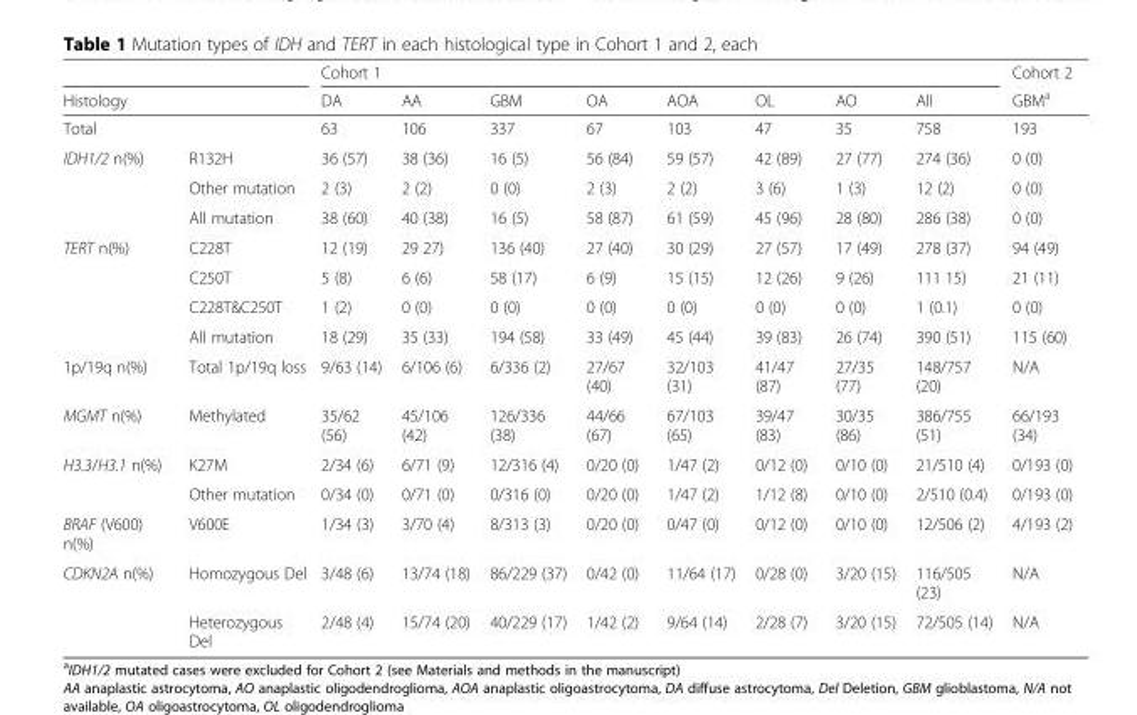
<table><thead><tr><td></td><td></td><td colspan="8">Cohort 1</td><td rowspan="2">Cohort 2 GBM<sup>a</sup></td></tr><tr><td colspan="2">Histology</td><td>DA</td><td>AA</td><td>GBM</td><td>OA</td><td>AOA</td><td>OL</td><td>AO</td><td>All</td></tr></thead><tbody><tr><td colspan="2">Total</td><td>63</td><td>106</td><td>337</td><td>67</td><td>103</td><td>47</td><td>35</td><td>758</td><td>193</td></tr><tr><td rowspan="3">IDH1/2 n(%)</td><td>R132H</td><td>36 (57)</td><td>38 (36)</td><td>16 (5)</td><td>56 (84)</td><td>59 (57)</td><td>42 (89)</td><td>27 (77)</td><td>274 (36)</td><td>0 (0)</td></tr><tr><td>Other mutation</td><td>2 (3)</td><td>2 (2)</td><td>0 (0)</td><td>2 (3)</td><td>2 (2)</td><td>3 (6)</td><td>1 (3)</td><td>12 (2)</td><td>0 (0)</td></tr><tr><td>All mutation</td><td>38 (60)</td><td>40 (38)</td><td>16 (5)</td><td>58 (87)</td><td>61 (59)</td><td>45 (96)</td><td>28 (80)</td><td>286 (38)</td><td>0 (0)</td></tr><tr><td rowspan="4">TERT n(%)</td><td>C228T</td><td>12 (19)</td><td>29 27)</td><td>136 (40)</td><td>27 (40)</td><td>30 (29)</td><td>27 (57)</td><td>17 (49)</td><td>278 (37)</td><td>94 (49)</td></tr><tr><td>C250T</td><td>5 (8)</td><td>6 (6)</td><td>58 (17)</td><td>6 (9)</td><td>15 (15)</td><td>12 (26)</td><td>9 (26)</td><td>111 15)</td><td>21 (11)</td></tr><tr><td>C228T&amp;C250T</td><td>1 (2)</td><td>0 (0)</td><td>0 (0)</td><td>0 (0)</td><td>0 (0)</td><td>0 (0)</td><td>0 (0)</td><td>1 (0.1)</td><td>0 (0)</td></tr><tr><td>All mutation</td><td>18 (29)</td><td>35 (33)</td><td>194 (58)</td><td>33 (49)</td><td>45 (44)</td><td>39 (83)</td><td>26 (74)</td><td>390 (51)</td><td>115 (60)</td></tr><tr><td>1p/19q n(%)</td><td>Total 1p/19q loss</td><td>9/63 (14)</td><td>6/106 (6)</td><td>6/336 (2)</td><td>27/67 (40)</td><td>32/103 (31)</td><td>41/47 (87)</td><td>27/35 (77)</td><td>148/757 (20)</td><td>N/A</td></tr><tr><td>MGMT n(%)</td><td>Methylated</td><td>35/62 (56)</td><td>45/106 (42)</td><td>126/336 (38)</td><td>44/66 (67)</td><td>67/103 (65)</td><td>39/47 (83)</td><td>30/35 (86)</td><td>386/755 (51)</td><td>66/193 (34)</td></tr><tr><td rowspan="2">H3.3/H3.1 n(%)</td><td>K27M</td><td>2/34 (6)</td><td>6/71 (9)</td><td>12/316 (4)</td><td>0/20 (0)</td><td>1/47 (2)</td><td>0/12 (0)</td><td>0/10 (0)</td><td>21/510 (4)</td><td>0/193 (0)</td></tr><tr><td>Other mutation</td><td>0/34 (0)</td><td>0/71 (0)</td><td>0/316 (0)</td><td>0/20 (0)</td><td>1/47 (2)</td><td>1/12 (8)</td><td>0/10 (0)</td><td>2/510 (0.4)</td><td>0/193 (0)</td></tr><tr><td>BRAF (V600) n(%)</td><td>V600E</td><td>1/34 (3)</td><td>3/70 (4)</td><td>8/313 (3)</td><td>0/20 (0)</td><td>0/47 (0)</td><td>0/12 (0)</td><td>0/10 (0)</td><td>12/506 (2)</td><td>4/193 (2)</td></tr><tr><td rowspan="2">CDKN2A n(%)</td><td>Homozygous Del</td><td>3/48 (6)</td><td>13/74 (18)</td><td>86/229 (37)</td><td>0/42 (0)</td><td>11/64 (17)</td><td>0/28 (0)</td><td>3/20 (15)</td><td>116/505 (23)</td><td>N/A</td></tr><tr><td>Heterozygous Del</td><td>2/48 (4)</td><td>15/74 (20)</td><td>40/229 (17)</td><td>1/42 (2)</td><td>9/64 (14)</td><td>2/28 (7)</td><td>3/20 (15)</td><td>72/505 (14)</td><td>N/A</td></tr></tbody></table>